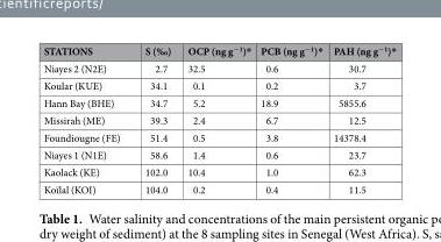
<table><thead><tr><td>STATIONS</td><td>S (‰)</td><td>OCP (ng g<sup>−1</sup>)*</td><td>PCB (ng g<sup>−1</sup>)*</td><td>PAH (ng g<sup>−1</sup>)*</td></tr></thead><tbody><tr><td>Niayes 2 (N2E)</td><td>2.7</td><td>32.5</td><td>0.6</td><td>30.7</td></tr><tr><td>Koular (KUE)</td><td>34.1</td><td>0.1</td><td>0.2</td><td>3.7</td></tr><tr><td>Hann Bay (BHE)</td><td>34.7</td><td>5.2</td><td>18.9</td><td>5855.6</td></tr><tr><td>Missirah (ME)</td><td>39.3</td><td>2.4</td><td>6.7</td><td>12.5</td></tr><tr><td>Foundiougne (FE)</td><td>51.4</td><td>0.5</td><td>3.8</td><td>14378.4</td></tr><tr><td>Niayes 1 (N1E)</td><td>58.6</td><td>1.4</td><td>0.6</td><td>23.7</td></tr><tr><td>Kaolack (KE)</td><td>102.0</td><td>10.4</td><td>1.0</td><td>62.3</td></tr><tr><td>Koïlal (KOI)</td><td>104.0</td><td>0.2</td><td>0.4</td><td>11.5</td></tr></tbody></table>